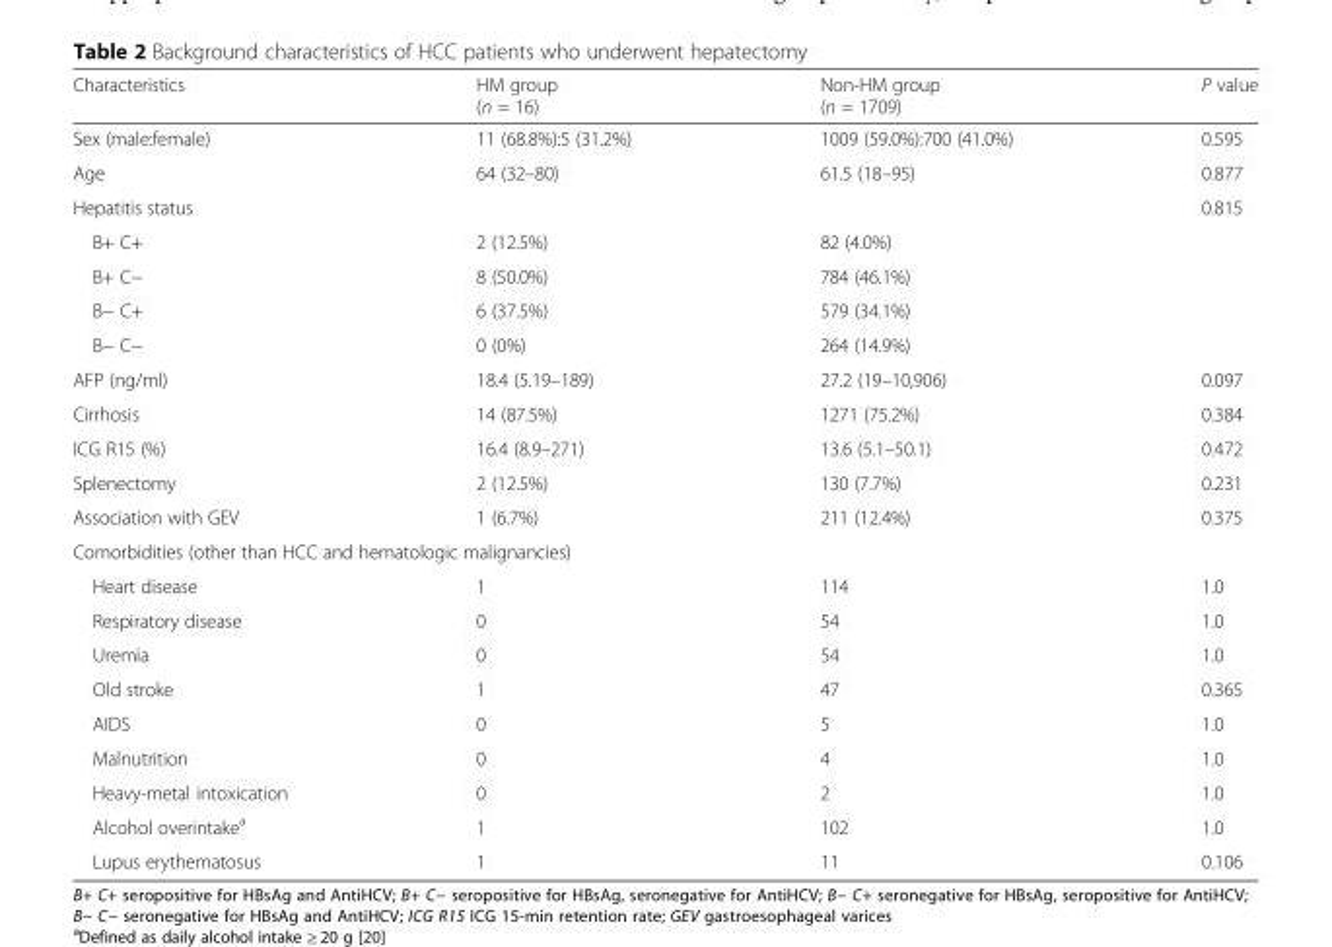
<table><thead><tr><td>Characteristics</td><td>HM group (n = 16)</td><td>Non-HM group (n = 1709)</td><td>P value</td></tr></thead><tbody><tr><td>Sex (male:female)</td><td>11 (68.8%):5 (31.2%)</td><td>1009 (59.0%):700 (41.0%)</td><td>0.595</td></tr><tr><td>Age</td><td>64 (32–80)</td><td>61.5 (18–95)</td><td>0.877</td></tr><tr><td>Hepatitis status</td><td></td><td></td><td>0.815</td></tr><tr><td>B+ C+</td><td>2 (12.5%)</td><td>82 (4.0%)</td><td></td></tr><tr><td>B+ C−</td><td>8 (50.0%)</td><td>784 (46.1%)</td><td></td></tr><tr><td>B− C+</td><td>6 (37.5%)</td><td>579 (34.1%)</td><td></td></tr><tr><td>B− C−</td><td>0 (0%)</td><td>264 (14.9%)</td><td></td></tr><tr><td>AFP (ng/ml)</td><td>18.4 (5.19–189)</td><td>27.2 (19–10,906)</td><td>0.097</td></tr><tr><td>Cirrhosis</td><td>14 (87.5%)</td><td>1271 (75.2%)</td><td>0.384</td></tr><tr><td>ICG R15 (%)</td><td>16.4 (8.9–271)</td><td>13.6 (5.1–50.1)</td><td>0.472</td></tr><tr><td>Splenectomy</td><td>2 (12.5%)</td><td>130 (7.7%)</td><td>0.231</td></tr><tr><td>Association with GEV</td><td>1 (6.7%)</td><td>211 (12.4%)</td><td>0.375</td></tr><tr><td colspan="4">Comorbidities (other than HCC and hematologic malignancies)</td></tr><tr><td>Heart disease</td><td>1</td><td>114</td><td>1.0</td></tr><tr><td>Respiratory disease</td><td>0</td><td>54</td><td>1.0</td></tr><tr><td>Uremia</td><td>0</td><td>54</td><td>1.0</td></tr><tr><td>Old stroke</td><td>1</td><td>47</td><td>0.365</td></tr><tr><td>AIDS</td><td>0</td><td>5</td><td>1.0</td></tr><tr><td>Malnutrition</td><td>0</td><td>4</td><td>1.0</td></tr><tr><td>Heavy-metal intoxication</td><td>0</td><td>2</td><td>1.0</td></tr><tr><td>Alcohol overintake<sup>a</sup></td><td>1</td><td>102</td><td>1.0</td></tr><tr><td>Lupus erythematosus</td><td>1</td><td>11</td><td>0.106</td></tr></tbody></table>